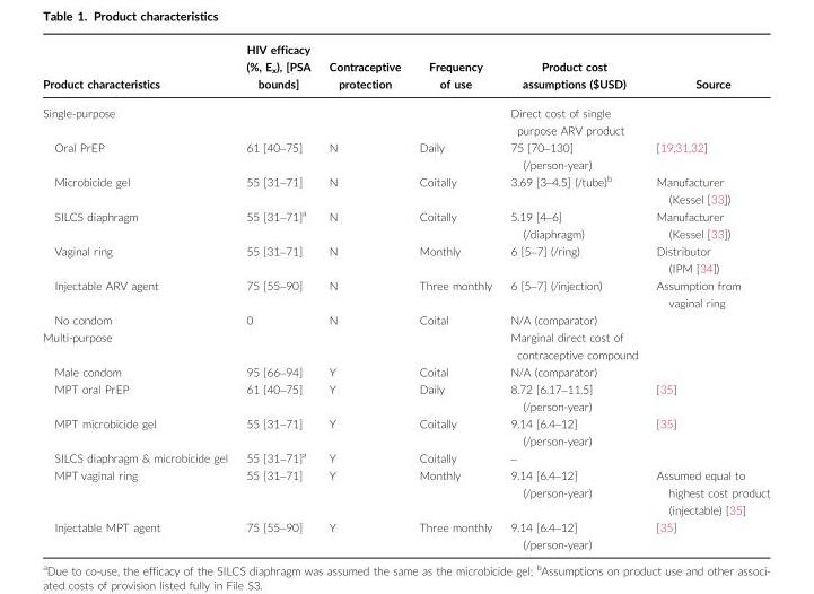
<table><thead><tr><td>Product characteristics</td><td>HIV efficacy (%, E<sub>x</sub>), [PSA bounds]</td><td>Contraceptive protection</td><td>Frequency of use</td><td>Product cost assumptions ($USD)</td><td>Source</td></tr></thead><tbody><tr><td colspan="4">Single-purpose</td><td>Direct cost of single purpose ARV product</td><td></td></tr><tr><td>Oral PrEP</td><td>61 [40–75]</td><td>N</td><td>Daily</td><td>75 [70–130] (/person-year)</td><td>[19,31,32]</td></tr><tr><td>Microbicide gel</td><td>55 [31–71]</td><td>N</td><td>Coitally</td><td>3.69 [3–4.5] (/tube)<sup>b</sup></td><td>Manufacturer (Kessel [33])</td></tr><tr><td>SILCS diaphragm</td><td>55 [31–71]<sup>a</sup></td><td>N</td><td>Coitally</td><td>5.19 [4–6] (/diaphragm)</td><td>Manufacturer (Kessel [33])</td></tr><tr><td>Vaginal ring</td><td>55 [31–71]</td><td>N</td><td>Monthly</td><td>6 [5–7] (/ring)</td><td>Distributor (IPM [34])</td></tr><tr><td>Injectable ARV agent</td><td>75 [55–90]</td><td>N</td><td>Three monthly</td><td>6 [5–7] (/injection)</td><td>Assumption from vaginal ring</td></tr><tr><td>No condom</td><td>0</td><td>N</td><td>Coital</td><td>N/A (comparator)</td><td></td></tr><tr><td>Multi-purpose</td><td></td><td></td><td></td><td>Marginal direct cost of contraceptive compound</td><td></td></tr><tr><td>Male condom</td><td>95 [66–94]</td><td>Y</td><td>Coital</td><td>N/A (comparator)</td><td></td></tr><tr><td>MPT oral PrEP</td><td>61 [40–75]</td><td>Y</td><td>Daily</td><td>8.72 [6.17–11.5] (/person-year)</td><td>[35]</td></tr><tr><td>MPT microbicide gel</td><td>55 [31–71]</td><td>Y</td><td>Coitally</td><td>9.14 [6.4–12] (/person-year)</td><td>[35]</td></tr><tr><td>SILCS diaphragm &amp; microbicide gel</td><td>55 [31–71]<sup>a</sup></td><td>Y</td><td>Coitally</td><td>–</td><td></td></tr><tr><td>MPT vaginal ring</td><td>55 [31–71]</td><td>Y</td><td>Monthly</td><td>9.14 [6.4–12] (/person-year)</td><td>Assumed equal to highest cost product (injectable) [35]</td></tr><tr><td>Injectable MPT agent</td><td>75 [55–90]</td><td>Y</td><td>Three monthly</td><td>9.14 [6.4–12] (/person-year)</td><td>[35]</td></tr></tbody></table>